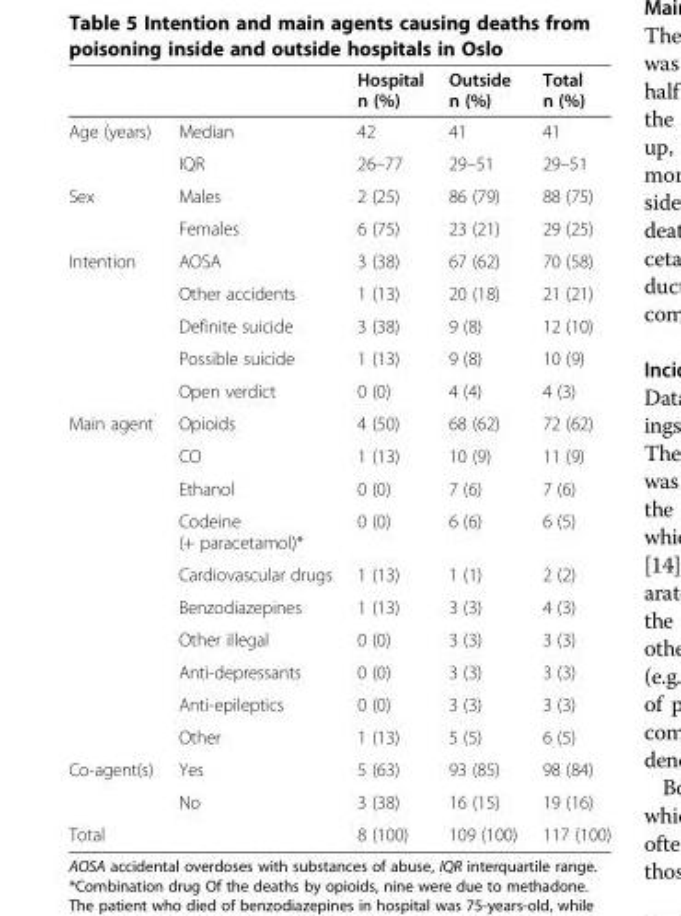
<table><thead><tr><td></td><td></td><td>Hospital n (%)</td><td>Outside n (%)</td><td>Total n (%)</td></tr></thead><tbody><tr><td rowspan="2">Age (years)</td><td>Median</td><td>42</td><td>41</td><td>41</td></tr><tr><td>IQR</td><td>26–77</td><td>29–51</td><td>29–51</td></tr><tr><td rowspan="2">Sex</td><td>Males</td><td>2 (25)</td><td>86 (79)</td><td>88 (75)</td></tr><tr><td>Females</td><td>6 (75)</td><td>23 (21)</td><td>29 (25)</td></tr><tr><td rowspan="5">Intention</td><td>AOSA</td><td>3 (38)</td><td>67 (62)</td><td>70 (58)</td></tr><tr><td>Other accidents</td><td>1 (13)</td><td>20 (18)</td><td>21 (21)</td></tr><tr><td>Definite suicide</td><td>3 (38)</td><td>9 (8)</td><td>12 (10)</td></tr><tr><td>Possible suicide</td><td>1 (13)</td><td>9 (8)</td><td>10 (9)</td></tr><tr><td>Open verdict</td><td>0 (0)</td><td>4 (4)</td><td>4 (3)</td></tr><tr><td rowspan="10">Main agent</td><td>Opioids</td><td>4 (50)</td><td>68 (62)</td><td>72 (62)</td></tr><tr><td>CO</td><td>1 (13)</td><td>10 (9)</td><td>11 (9)</td></tr><tr><td>Ethanol</td><td>0 (0)</td><td>7 (6)</td><td>7 (6)</td></tr><tr><td>Codeine (+ paracetamol)*</td><td>0 (0)</td><td>6 (6)</td><td>6 (5)</td></tr><tr><td>Cardiovascular drugs</td><td>1 (13)</td><td>1 (1)</td><td>2 (2)</td></tr><tr><td>Benzodiazepines</td><td>1 (13)</td><td>3 (3)</td><td>4 (3)</td></tr><tr><td>Other illegal</td><td>0 (0)</td><td>3 (3)</td><td>3 (3)</td></tr><tr><td>Anti-depressants</td><td>0 (0)</td><td>3 (3)</td><td>3 (3)</td></tr><tr><td>Anti-epileptics</td><td>0 (0)</td><td>3 (3)</td><td>3 (3)</td></tr><tr><td>Other</td><td>1 (13)</td><td>5 (5)</td><td>6 (5)</td></tr><tr><td rowspan="2">Co-agent(s)</td><td>Yes</td><td>5 (63)</td><td>93 (85)</td><td>98 (84)</td></tr><tr><td>No</td><td>3 (38)</td><td>16 (15)</td><td>19 (16)</td></tr><tr><td>Total</td><td></td><td>8 (100)</td><td>109 (100)</td><td>117 (100)</td></tr></tbody></table>